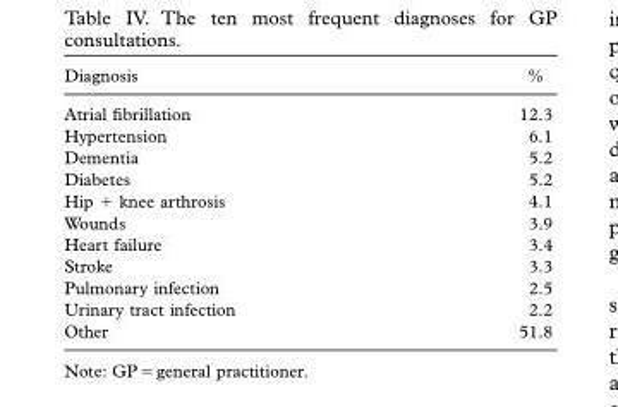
<table><thead><tr><td>Diagnosis</td><td>%</td></tr></thead><tbody><tr><td>Atrial fi brillation</td><td>12.3</td></tr><tr><td>Hypertension</td><td>6.1</td></tr><tr><td>Dementia</td><td>5.2</td></tr><tr><td>Diabetes</td><td>5.2</td></tr><tr><td>Hip + knee arthrosis</td><td>4.1</td></tr><tr><td>Wounds</td><td>3.9</td></tr><tr><td>Heart failure</td><td>3.4</td></tr><tr><td>Stroke</td><td>3.3</td></tr><tr><td>Pulmonary infection</td><td>2.5</td></tr><tr><td>Urinary tract infection</td><td>2.2</td></tr><tr><td>Other</td><td>51.8</td></tr></tbody></table>